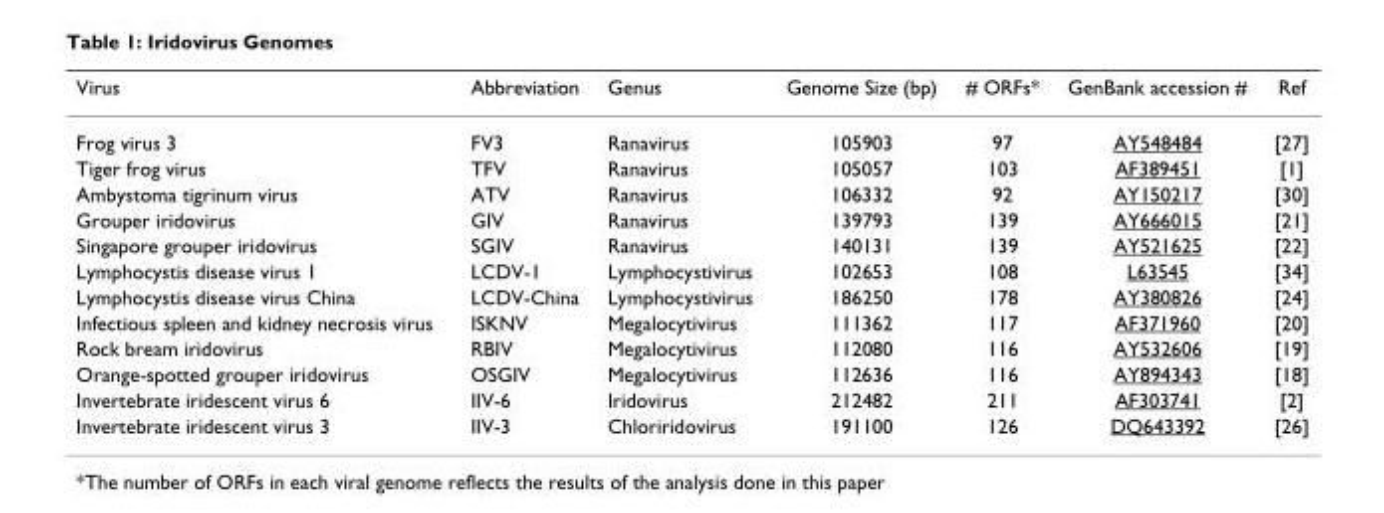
<table><thead><tr><td>Virus</td><td>Abbreviation</td><td>Genus</td><td>Genome Size (bp)</td><td># ORFs*</td><td>GenBank accession #</td><td>Ref</td></tr></thead><tbody><tr><td>Frog virus 3</td><td>FV3</td><td>Ranavirus</td><td>105903</td><td>97</td><td>AY548484</td><td>[27]</td></tr><tr><td>Tiger frog virus</td><td>TFV</td><td>Ranavirus</td><td>105057</td><td>103</td><td>AF389451</td><td>[1]</td></tr><tr><td>Ambystoma tigrinum virus</td><td>ATV</td><td>Ranavirus</td><td>106332</td><td>92</td><td>AY150217</td><td>[30]</td></tr><tr><td>Grouper iridovirus</td><td>GIV</td><td>Ranavirus</td><td>139793</td><td>139</td><td>AY666015</td><td>[21]</td></tr><tr><td>Singapore grouper iridovirus</td><td>SGIV</td><td>Ranavirus</td><td>140131</td><td>139</td><td>AY521625</td><td>[22]</td></tr><tr><td>Lymphocystis disease virus 1</td><td>LCDV-1</td><td>Lymphocystivirus</td><td>102653</td><td>108</td><td>L63545</td><td>[34]</td></tr><tr><td>Lymphocystis disease virus China</td><td>LCDV-China</td><td>Lymphocystivirus</td><td>186250</td><td>178</td><td>AY380826</td><td>[24]</td></tr><tr><td>Infectious spleen and kidney necrosis virus</td><td>ISKNV</td><td>Megalocytivirus</td><td>111362</td><td>117</td><td>AF371960</td><td>[20]</td></tr><tr><td>Rock bream iridovirus</td><td>RBIV</td><td>Megalocytivirus</td><td>112080</td><td>116</td><td>AY532606</td><td>[19]</td></tr><tr><td>Orange-spotted grouper iridovirus</td><td>OSGIV</td><td>Megalocytivirus</td><td>112636</td><td>116</td><td>AY894343</td><td>[18]</td></tr><tr><td>Invertebrate iridescent virus 6</td><td>IIV-6</td><td>Iridovirus</td><td>212482</td><td>211</td><td>AF303741</td><td>[2]</td></tr><tr><td>Invertebrate iridescent virus 3</td><td>IIV-3</td><td>Chloriridovirus</td><td>191100</td><td>126</td><td>DQ643392</td><td>[26]</td></tr></tbody></table>